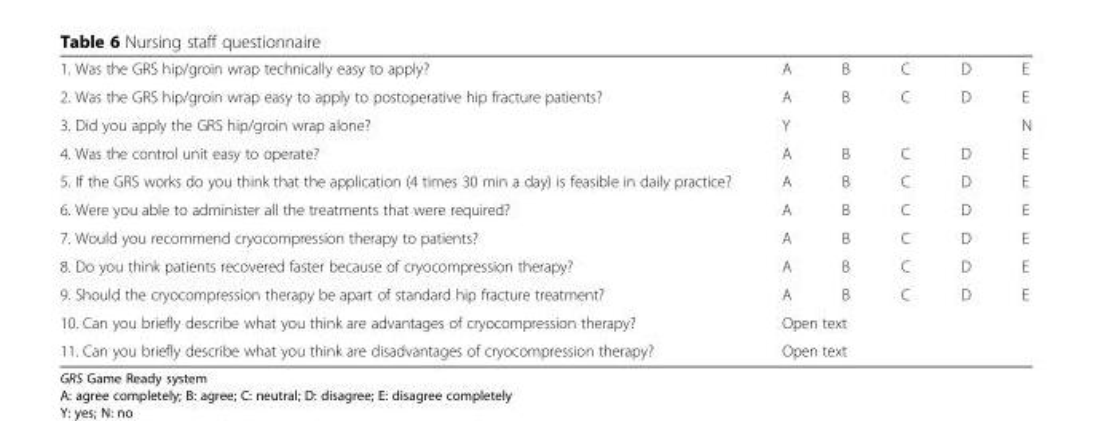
<table><tbody><tr><td>1. Was the GRS hip/groin wrap technically easy to apply?</td><td>A</td><td>B</td><td>C</td><td>D</td><td>E</td></tr><tr><td>2. Was the GRS hip/groin wrap easy to apply to postoperative hip fracture patients?</td><td>A</td><td>B</td><td>C</td><td>D</td><td>E</td></tr><tr><td>3. Did you apply the GRS hip/groin wrap alone?</td><td>Y</td><td></td><td></td><td></td><td>N</td></tr><tr><td>4. Was the control unit easy to operate?</td><td>A</td><td>B</td><td>C</td><td>D</td><td>E</td></tr><tr><td>5. If the GRS works do you think that the application (4 times 30 min a day) is feasible in daily practice?</td><td>A</td><td>B</td><td>C</td><td>D</td><td>E</td></tr><tr><td>6. Were you able to administer all the treatments that were required?</td><td>A</td><td>B</td><td>C</td><td>D</td><td>E</td></tr><tr><td>7. Would you recommend cryocompression therapy to patients?</td><td>A</td><td>B</td><td>C</td><td>D</td><td>E</td></tr><tr><td>8. Do you think patients recovered faster because of cryocompression therapy?</td><td>A</td><td>B</td><td>C</td><td>D</td><td>E</td></tr><tr><td>9. Should the cryocompression therapy be apart of standard hip fracture treatment?</td><td>A</td><td>B</td><td>C</td><td>D</td><td>E</td></tr><tr><td>10. Can you briefly describe what you think are advantages of cryocompression therapy?</td><td colspan="5">Open text</td></tr><tr><td>11. Can you briefly describe what you think are disadvantages of cryocompression therapy?</td><td colspan="5">Open text</td></tr></tbody></table>